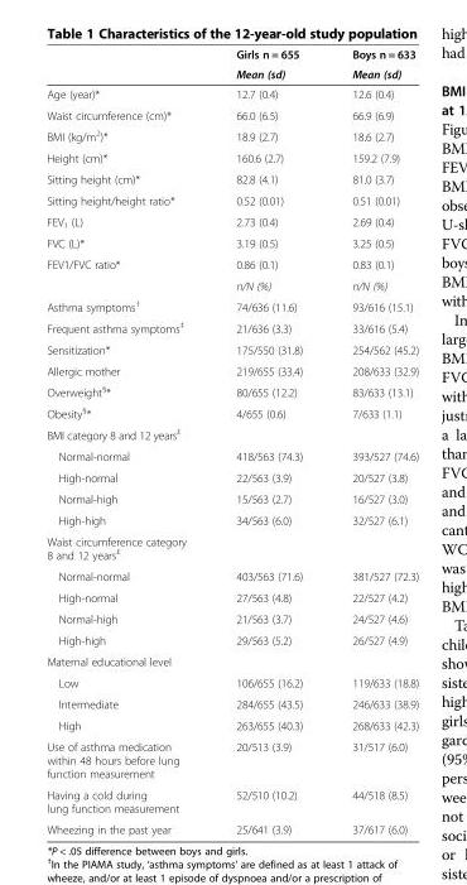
<table><thead><tr><td rowspan="2"></td><td rowspan="2">Girls n = 655 Mean (sd)</td><td rowspan="2">Boys n = 633 Mean (sd)</td></tr><tr></tr></thead><tbody><tr><td>Age (year)*</td><td>12.7 (0.4)</td><td>12.6 (0.4)</td></tr><tr><td>Waist circumference (cm)*</td><td>66.0 (6.5)</td><td>66.9 (6.9)</td></tr><tr><td>BMI (kg/m<sup>2</sup>)*</td><td>18.9 (2.7)</td><td>18.6 (2.7)</td></tr><tr><td>Height (cm)*</td><td>160.6 (2.7)</td><td>159.2 (7.9)</td></tr><tr><td>Sitting height (cm)*</td><td>82.8 (4.1)</td><td>81.0 (3.7)</td></tr><tr><td>Sitting height/height ratio*</td><td>0.52 (0.01)</td><td>0.51 (0.01)</td></tr><tr><td>FEV<sub>1</sub> (L)</td><td>2.73 (0.4)</td><td>2.69 (0.4)</td></tr><tr><td>FVC (L)*</td><td>3.19 (0.5)</td><td>3.25 (0.5)</td></tr><tr><td rowspan="2">FEV1/FVC ratio*</td><td>0.86 (0.1)</td><td>0.83 (0.1)</td></tr><tr><td>n/N (%)</td><td>n/N (%)</td></tr><tr><td>Asthma symptoms<sup>†</sup></td><td>74/636 (11.6)</td><td>93/616 (15.1)</td></tr><tr><td>Frequent asthma symptoms<sup>‡</sup></td><td>21/636 (3.3)</td><td>33/616 (5.4)</td></tr><tr><td>Sensitization*</td><td>175/550 (31.8)</td><td>254/562 (45.2)</td></tr><tr><td>Allergic mother</td><td>219/655 (33.4)</td><td>208/633 (32.9)</td></tr><tr><td>Overweight<sup>§</sup>*</td><td>80/655 (12.2)</td><td>83/633 (13.1)</td></tr><tr><td>Obesity<sup>§</sup>*</td><td>4/655 (0.6)</td><td>7/633 (1.1)</td></tr><tr><td colspan="3">BMI category 8 and 12 years<sup>£</sup></td></tr><tr><td>Normal-normal</td><td>418/563 (74.3)</td><td>393/527 (74.6)</td></tr><tr><td>High-normal</td><td>22/563 (3.9)</td><td>20/527 (3.8)</td></tr><tr><td>Normal-high</td><td>15/563 (2.7)</td><td>16/527 (3.0)</td></tr><tr><td>High-high</td><td>34/563 (6.0)</td><td>32/527 (6.1)</td></tr><tr><td colspan="3">Waist circumference category 8 and 12 years<sup>£</sup></td></tr><tr><td>Normal-normal</td><td>403/563 (71.6)</td><td>381/527 (72.3)</td></tr><tr><td>High-normal</td><td>27/563 (4.8)</td><td>22/527 (4.2)</td></tr><tr><td>Normal-high</td><td>21/563 (3.7)</td><td>24/527 (4.6)</td></tr><tr><td>High-high</td><td>29/563 (5.2)</td><td>26/527 (4.9)</td></tr><tr><td colspan="3">Maternal educational level</td></tr><tr><td>Low</td><td>106/655 (16.2)</td><td>119/633 (18.8)</td></tr><tr><td>Intermediate</td><td>284/655 (43.5)</td><td>246/633 (38.9)</td></tr><tr><td>High</td><td>263/655 (40.3)</td><td>268/633 (42.3)</td></tr><tr><td>Use of asthma medication within 48 hours before lung function measurement</td><td>20/513 (3.9)</td><td>31/517 (6.0)</td></tr><tr><td>Having a cold during lung function measurement</td><td>52/510 (10.2)</td><td>44/518 (8.5)</td></tr><tr><td>Wheezing in the past year</td><td>25/641 (3.9)</td><td>37/617 (6.0)</td></tr></tbody></table>